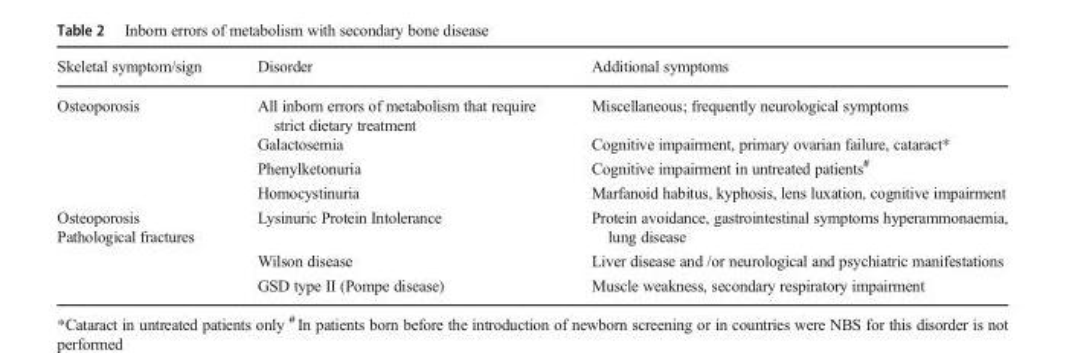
<table><thead><tr><td>Skeletal symptom/sign</td><td>Disorder</td><td>Additional symptoms</td></tr></thead><tbody><tr><td rowspan="4">Osteoporosis</td><td>All inborn errors of metabolism that require strict dietary treatment</td><td>Miscellaneous; frequently neurological symptoms</td></tr><tr><td>Galactosemia</td><td>Cognitive impairment, primary ovarian failure, cataract*</td></tr><tr><td>Phenylketonuria</td><td>Cognitive impairment in untreated patients<sup>#</sup></td></tr><tr><td>Homocystinuria</td><td>Marfanoid habitus, kyphosis, lens luxation, cognitive impairment</td></tr><tr><td rowspan="3">Osteoporosis Pathological fractures</td><td>Lysinuric Protein Intolerance</td><td>Protein avoidance, gastrointestinal symptoms hyperammonaemia, lung disease</td></tr><tr><td>Wilson disease</td><td>Liver disease and /or neurological and psychiatric manifestations</td></tr><tr><td>GSD type II (Pompe disease)</td><td>Muscle weakness, secondary respiratory impairment</td></tr></tbody></table>